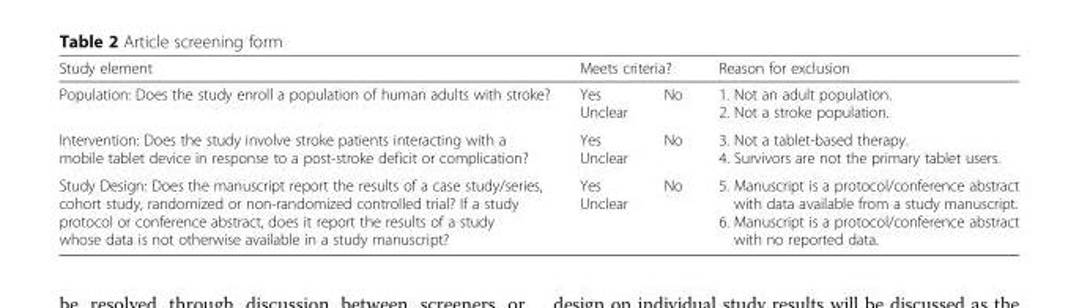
<table><thead><tr><td rowspan="2">Study element Population: Does the study enroll a population of human adults with stroke?</td><td colspan="2">Meets criteria?</td><td rowspan="2">Reason for exclusion 1. Not an adult population. 2. Not a stroke population.</td></tr><tr><td>Yes Unclear</td><td>No</td></tr></thead><tbody><tr><td>Intervention: Does the study involve stroke patients interacting with a mobile tablet device in response to a post-stroke deficit or complication?</td><td>Yes Unclear</td><td>No</td><td>3. Not a tablet-based therapy. 4. Survivors are not the primary tablet users.</td></tr><tr><td>Study Design: Does the manuscript report the results of a case study/series, cohort study, randomized or non-randomized controlled trial? If a study protocol or conference abstract, does it report the results of a study whose data is not otherwise available in a study manuscript?</td><td>Yes Unclear</td><td>No</td><td>5. Manuscript is a protocol/conference abstract with data available from a study manuscript. 6. Manuscript is a protocol/conference abstract with no reported data.</td></tr></tbody></table>